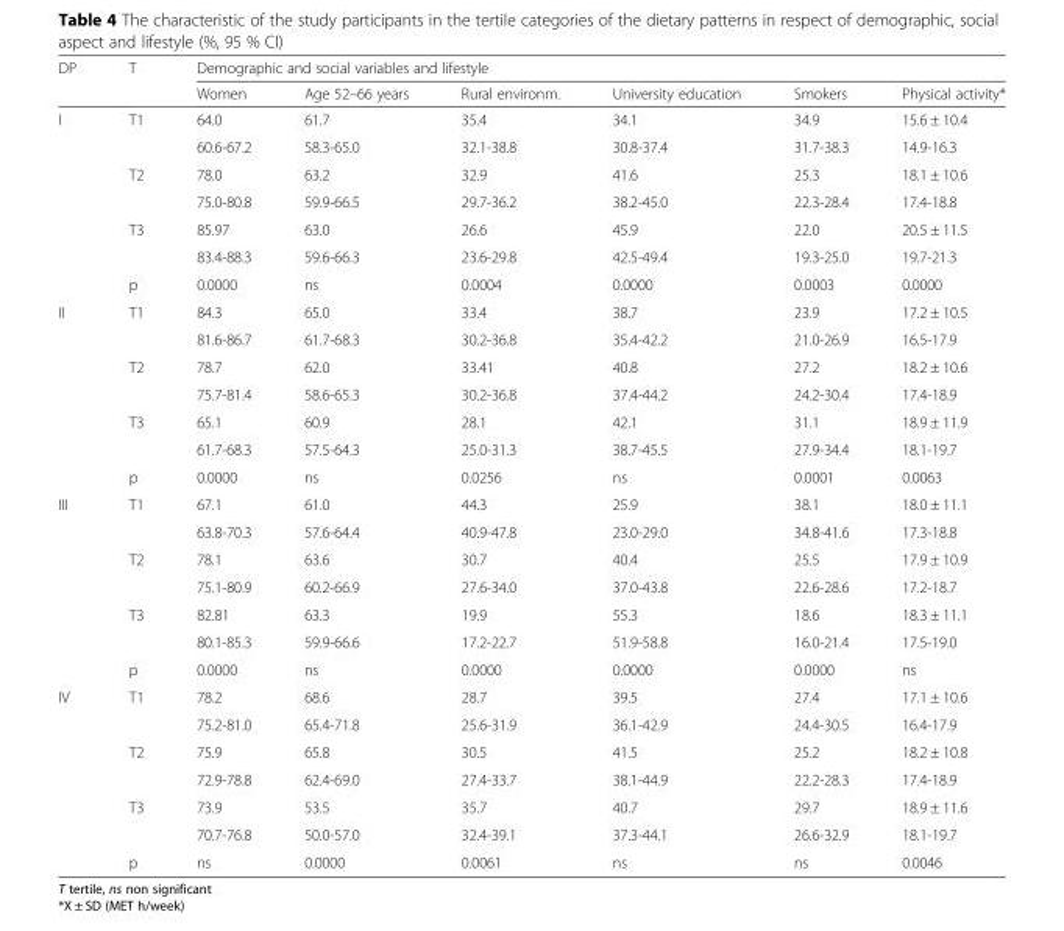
<table><thead><tr><td rowspan="2">DP</td><td rowspan="2">T</td><td colspan="6">Demographic and social variables and lifestyle</td></tr><tr><td>Women</td><td>Age 52–66 years</td><td>Rural environm.</td><td>University education</td><td>Smokers</td><td>Physical activity*</td></tr></thead><tbody><tr><td rowspan="7">I</td><td rowspan="2">T1</td><td>64.0</td><td>61.7</td><td>35.4</td><td>34.1</td><td>34.9</td><td>15.6 ± 10.4</td></tr><tr><td>60.6-67.2</td><td>58.3-65.0</td><td>32.1-38.8</td><td>30.8-37.4</td><td>31.7-38.3</td><td>14.9-16.3</td></tr><tr><td rowspan="2">T2</td><td>78.0</td><td>63.2</td><td>32.9</td><td>41.6</td><td>25.3</td><td>18.1 ± 10.6</td></tr><tr><td>75.0-80.8</td><td>59.9-66.5</td><td>29.7-36.2</td><td>38.2-45.0</td><td>22.3-28.4</td><td>17.4-18.8</td></tr><tr><td rowspan="2">T3</td><td>85.97</td><td>63.0</td><td>26.6</td><td>45.9</td><td>22.0</td><td>20.5 ± 11.5</td></tr><tr><td>83.4-88.3</td><td>59.6-66.3</td><td>23.6-29.8</td><td>42.5-49.4</td><td>19.3-25.0</td><td>19.7-21.3</td></tr><tr><td>p</td><td>0.0000</td><td>ns</td><td>0.0004</td><td>0.0000</td><td>0.0003</td><td>0.0000</td></tr><tr><td rowspan="7">II</td><td rowspan="2">T1</td><td>84.3</td><td>65.0</td><td>33.4</td><td>38.7</td><td>23.9</td><td>17.2 ± 10.5</td></tr><tr><td>81.6-86.7</td><td>61.7-68.3</td><td>30.2-36.8</td><td>35.4-42.2</td><td>21.0-26.9</td><td>16.5-17.9</td></tr><tr><td rowspan="2">T2</td><td>78.7</td><td>62.0</td><td>33.41</td><td>40.8</td><td>27.2</td><td>18.2 ± 10.6</td></tr><tr><td>75.7-81.4</td><td>58.6-65.3</td><td>30.2-36.8</td><td>37.4-44.2</td><td>24.2-30.4</td><td>17.4-18.9</td></tr><tr><td rowspan="2">T3</td><td>65.1</td><td>60.9</td><td>28.1</td><td>42.1</td><td>31.1</td><td>18.9 ± 11.9</td></tr><tr><td>61.7-68.3</td><td>57.5-64.3</td><td>25.0-31.3</td><td>38.7-45.5</td><td>27.9-34.4</td><td>18.1-19.7</td></tr><tr><td>p</td><td>0.0000</td><td>ns</td><td>0.0256</td><td>ns</td><td>0.0001</td><td>0.0063</td></tr><tr><td rowspan="7">III</td><td rowspan="2">T1</td><td>67.1</td><td>61.0</td><td>44.3</td><td>25.9</td><td>38.1</td><td>18.0 ± 11.1</td></tr><tr><td>63.8-70.3</td><td>57.6-64.4</td><td>40.9-47.8</td><td>23.0-29.0</td><td>34.8-41.6</td><td>17.3-18.8</td></tr><tr><td rowspan="2">T2</td><td>78.1</td><td>63.6</td><td>30.7</td><td>40.4</td><td>25.5</td><td>17.9 ± 10.9</td></tr><tr><td>75.1-80.9</td><td>60.2-66.9</td><td>27.6-34.0</td><td>37.0-43.8</td><td>22.6-28.6</td><td>17.2-18.7</td></tr><tr><td rowspan="2">T3</td><td>82.81</td><td>63.3</td><td>19.9</td><td>55.3</td><td>18.6</td><td>18.3 ± 11.1</td></tr><tr><td>80.1-85.3</td><td>59.9-66.6</td><td>17.2-22.7</td><td>51.9-58.8</td><td>16.0-21.4</td><td>17.5-19.0</td></tr><tr><td>p</td><td>0.0000</td><td>ns</td><td>0.0000</td><td>0.0000</td><td>0.0000</td><td>ns</td></tr><tr><td rowspan="7">IV</td><td rowspan="2">T1</td><td>78.2</td><td>68.6</td><td>28.7</td><td>39.5</td><td>27.4</td><td>17.1 ± 10.6</td></tr><tr><td>75.2-81.0</td><td>65.4-71.8</td><td>25.6-31.9</td><td>36.1-42.9</td><td>24.4-30.5</td><td>16.4-17.9</td></tr><tr><td rowspan="2">T2</td><td>75.9</td><td>65.8</td><td>30.5</td><td>41.5</td><td>25.2</td><td>18.2 ± 10.8</td></tr><tr><td>72.9-78.8</td><td>62.4-69.0</td><td>27.4-33.7</td><td>38.1-44.9</td><td>22.2-28.3</td><td>17.4-18.9</td></tr><tr><td rowspan="2">T3</td><td>73.9</td><td>53.5</td><td>35.7</td><td>40.7</td><td>29.7</td><td>18.9 ± 11.6</td></tr><tr><td>70.7-76.8</td><td>50.0-57.0</td><td>32.4-39.1</td><td>37.3-44.1</td><td>26.6-32.9</td><td>18.1-19.7</td></tr><tr><td>p</td><td>ns</td><td>0.0000</td><td>0.0061</td><td>ns</td><td>ns</td><td>0.0046</td></tr></tbody></table>